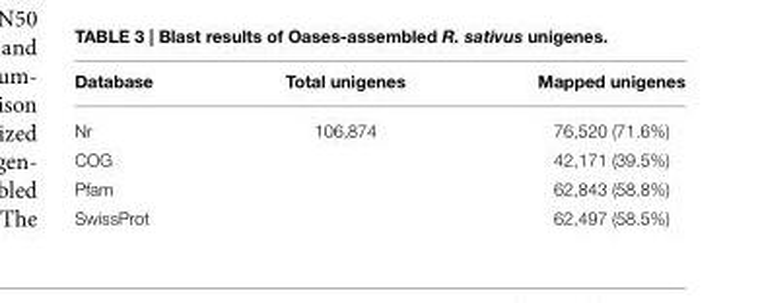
<table><thead><tr><td>Database</td><td>Total unigenes</td><td>Mapped unigenes</td></tr></thead><tbody><tr><td>Nr</td><td>106,874</td><td>76,520 (71.6%)</td></tr><tr><td>COG</td><td></td><td>42,171 (39.5%)</td></tr><tr><td>Pfam</td><td></td><td>62,843 (58.8%)</td></tr><tr><td>SwissProt</td><td></td><td>62,497 (58.5%)</td></tr></tbody></table>